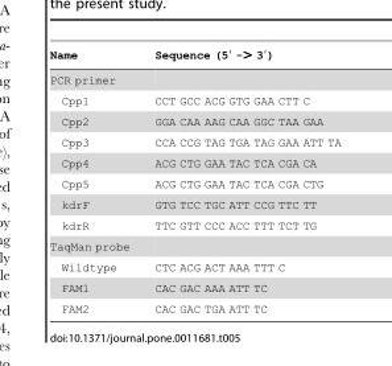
<table><thead><tr><td>Name</td><td>Sequence (5′ -&gt; 3′)</td></tr></thead><tbody><tr><td colspan="2">PCR primer</td></tr><tr><td>Cpp1</td><td>CCT GCC ACG GTG GAA CTT C</td></tr><tr><td>Cpp2</td><td>GGA CAA AAG CAA GGC TAA GAA</td></tr><tr><td>Cpp3</td><td>CCA CCG TAG TGA TAG GAA ATT TA</td></tr><tr><td>Cpp4</td><td>ACG CTG GAA TAC TCA CGA CA</td></tr><tr><td>Cpp5</td><td>ACG CTG GAA TAC TCA CGA CTG</td></tr><tr><td>kdrF</td><td>GTG TCC TGC ATT CCG TTC TT</td></tr><tr><td>kdrR</td><td>TTC GTT CCC ACC TTT TCT TG</td></tr><tr><td colspan="2">TaqMan probe</td></tr><tr><td>Wildtype</td><td>CTC ACG ACT AAA TTT C</td></tr><tr><td>FAM1</td><td>CAC GAC AAA ATT TC</td></tr><tr><td>FAM2</td><td>CAC GAC TGA ATT TC</td></tr></tbody></table>